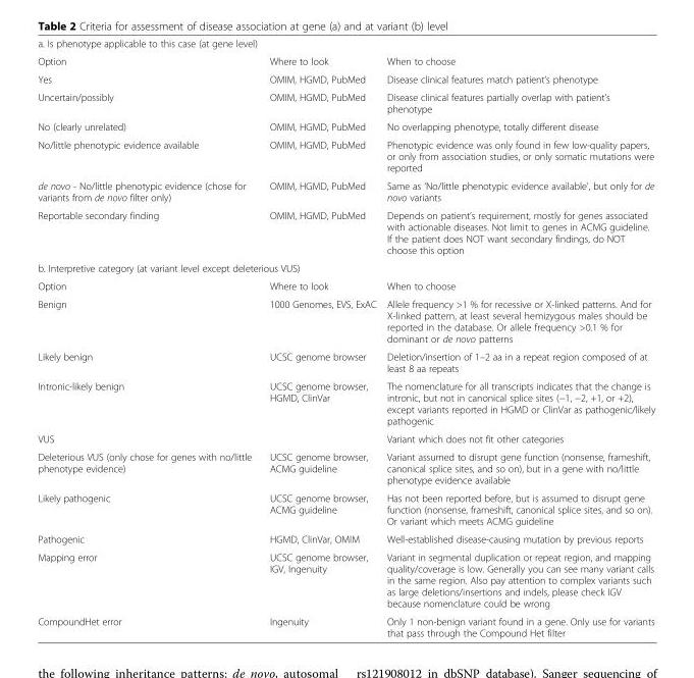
<table><tbody><tr><td colspan="3">a. Is phenotype applicable to this case (at gene level)</td></tr><tr><td>Option</td><td>Where to look</td><td>When to choose</td></tr><tr><td>Yes</td><td>OMIM, HGMD, PubMed</td><td>Disease clinical features match patient’s phenotype</td></tr><tr><td>Uncertain/possibly</td><td>OMIM, HGMD, PubMed</td><td>Disease clinical features partially overlap with patient’s phenotype</td></tr><tr><td>No (clearly unrelated)</td><td>OMIM, HGMD, PubMed</td><td>No overlapping phenotype, totally different disease</td></tr><tr><td>No/little phenotypic evidence available</td><td>OMIM, HGMD, PubMed</td><td>Phenotypic evidence was only found in few low-quality papers, or only from association studies, or only somatic mutations were reported</td></tr><tr><td>de novo - No/little phenotypic evidence (chose for variants from de novo filter only)</td><td>OMIM, HGMD, PubMed</td><td>Same as ‘No/little phenotypic evidence available’, but only for de novo variants</td></tr><tr><td>Reportable secondary finding</td><td>OMIM, HGMD, PubMed</td><td>Depends on patient’s requirement, mostly for genes associated with actionable diseases. Not limit to genes in ACMG guideline. If the patient does NOT want secondary findings, do NOT choose this option</td></tr><tr><td colspan="3">b. Interpretive category (at variant level except deleterious VUS)</td></tr><tr><td>Option</td><td>Where to look</td><td>When to choose</td></tr><tr><td>Benign</td><td>1000 Genomes, EVS, ExAC</td><td>Allele frequency &gt;1 % for recessive or X-linked patterns. And for X-linked pattern, at least several hemizygous males should be reported in the database. Or allele frequency &gt;0.1 % for dominant or de novo patterns</td></tr><tr><td>Likely benign</td><td>UCSC genome browser</td><td>Deletion/insertion of 1–2 aa in a repeat region composed of at least 8 aa repeats</td></tr><tr><td>Intronic-likely benign</td><td>UCSC genome browser, HGMD, ClinVar</td><td>The nomenclature for all transcripts indicates that the change is intronic, but not in canonical splice sites (−1, −2, +1, or +2), except variants reported in HGMD or ClinVar as pathogenic/likely pathogenic</td></tr><tr><td>VUS</td><td></td><td>Variant which does not fit other categories</td></tr><tr><td>Deleterious VUS (only chose for genes with no/little phenotype evidence)</td><td>UCSC genome browser, ACMG guideline</td><td>Variant assumed to disrupt gene function (nonsense, frameshift, canonical splice sites, and so on), but in a gene with no/little phenotype evidence available</td></tr><tr><td>Likely pathogenic</td><td>UCSC genome browser, ACMG guideline</td><td>Has not been reported before, but is assumed to disrupt gene function (nonsense, frameshift, canonical splice sites, and so on). Or variant which meets ACMG guideline</td></tr><tr><td>Pathogenic</td><td>HGMD, ClinVar, OMIM</td><td>Well-established disease-causing mutation by previous reports</td></tr><tr><td>Mapping error</td><td>UCSC genome browser, IGV, Ingenuity</td><td>Variant in segmental duplication or repeat region, and mapping quality/coverage is low. Generally you can see many variant calls in the same region. Also pay attention to complex variants such as large deletions/insertions and indels, please check IGV because nomenclature could be wrong</td></tr><tr><td>CompoundHet error</td><td>Ingenuity</td><td>Only 1 non-benign variant found in a gene. Only use for variants that pass through the Compound Het filter</td></tr></tbody></table>